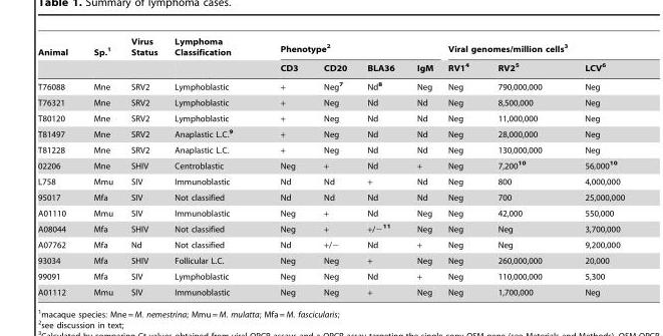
<table><thead><tr><td rowspan="2">Animal</td><td rowspan="2">Sp.<sup>1</sup></td><td rowspan="2">Virus Status</td><td rowspan="2">Lymphoma Classification</td><td colspan="4">Phenotype<sup>2</sup></td><td colspan="3">Viral genomes/million cells<sup>3</sup></td></tr><tr><td>CD3</td><td>CD20</td><td>BLA36</td><td>IgM</td><td>RV1<sup>4</sup></td><td>RV2<sup>5</sup></td><td>LCV<sup>6</sup></td></tr></thead><tbody><tr><td>T76088</td><td>Mne</td><td>SRV2</td><td>Lymphoblastic</td><td>+</td><td>Neg<sup>7</sup></td><td>Nd<sup>8</sup></td><td>Neg</td><td>Neg</td><td>790,000,000</td><td>Neg</td></tr><tr><td>T76321</td><td>Mne</td><td>SRV2</td><td>Lymphoblastic</td><td>+</td><td>Neg</td><td>Nd</td><td>Nd</td><td>Neg</td><td>8,500,000</td><td>Neg</td></tr><tr><td>T80120</td><td>Mne</td><td>SRV2</td><td>Lymphoblastic</td><td>+</td><td>Neg</td><td>Nd</td><td>Nd</td><td>Neg</td><td>11,000,000</td><td>Neg</td></tr><tr><td>T81497</td><td>Mne</td><td>SRV2</td><td>Anaplastic L.C.<sup>9</sup></td><td>+</td><td>Neg</td><td>Nd</td><td>Nd</td><td>Neg</td><td>28,000,000</td><td>Neg</td></tr><tr><td>T81228</td><td>Mne</td><td>SRV2</td><td>Anaplastic L.C.</td><td>+</td><td>Neg</td><td>Nd</td><td>Nd</td><td>Neg</td><td>130,000,000</td><td>Neg</td></tr><tr><td>02206</td><td>Mne</td><td>SHIV</td><td>Centroblastic</td><td>Neg</td><td>+</td><td>Nd</td><td>+</td><td>Neg</td><td>7,200<sup>10</sup></td><td>56,000<sup>10</sup></td></tr><tr><td>L758</td><td>Mmu</td><td>SIV</td><td>Immunoblastic</td><td>Nd</td><td>Nd</td><td>+</td><td>Nd</td><td>Neg</td><td>800</td><td>4,000,000</td></tr><tr><td>95017</td><td>Mfa</td><td>SIV</td><td>Not classified</td><td>Nd</td><td>Nd</td><td>Nd</td><td>Nd</td><td>Neg</td><td>700</td><td>25,000,000</td></tr><tr><td>A01110</td><td>Mmu</td><td>SIV</td><td>Immunoblastic</td><td>Neg</td><td>+</td><td>Nd</td><td>Neg</td><td>Neg</td><td>42,000</td><td>550,000</td></tr><tr><td>A08044</td><td>Mfa</td><td>SHIV</td><td>Not classified</td><td>Neg</td><td>+</td><td>+/−11</td><td>Neg</td><td>Neg</td><td>Neg</td><td>3,700,000</td></tr><tr><td>A07762</td><td>Mfa</td><td>Nd</td><td>Not classified</td><td>Nd</td><td>+/−</td><td>Nd</td><td>+</td><td>Neg</td><td>Neg</td><td>9,200,000</td></tr><tr><td>93034</td><td>Mfa</td><td>SHIV</td><td>Follicular L.C.</td><td>Neg</td><td>Neg</td><td>+</td><td>Neg</td><td>Neg</td><td>260,000,000</td><td>20,000</td></tr><tr><td>99091</td><td>Mfa</td><td>SIV</td><td>Lymphoblastic</td><td>Neg</td><td>Neg</td><td>Nd</td><td>+</td><td>Neg</td><td>110,000,000</td><td>5,300</td></tr><tr><td>A01112</td><td>Mmu</td><td>SIV</td><td>Immunoblastic</td><td>Neg</td><td>Neg</td><td>+</td><td>Neg</td><td>Neg</td><td>1,700,000</td><td>Neg</td></tr></tbody></table>